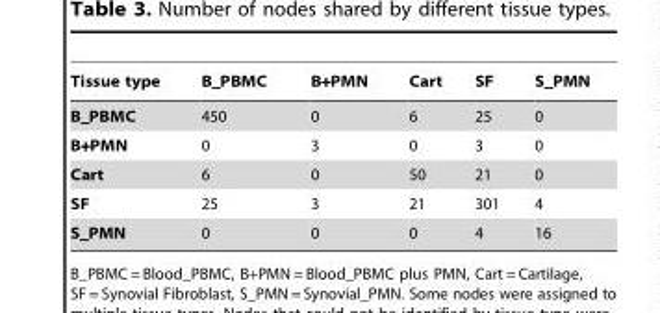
<table><thead><tr><td>Tissue type</td><td>B__PBMC</td><td>B+PMN</td><td>Cart</td><td>SF</td><td>S__PMN</td></tr></thead><tbody><tr><td>B__PBMC</td><td>450</td><td>0</td><td>6</td><td>25</td><td>0</td></tr><tr><td>B+PMN</td><td>0</td><td>3</td><td>0</td><td>3</td><td>0</td></tr><tr><td>Cart</td><td>6</td><td>0</td><td>50</td><td>21</td><td>0</td></tr><tr><td>SF</td><td>25</td><td>3</td><td>21</td><td>301</td><td>4</td></tr><tr><td>S__PMN</td><td>0</td><td>0</td><td>0</td><td>4</td><td>16</td></tr></tbody></table>